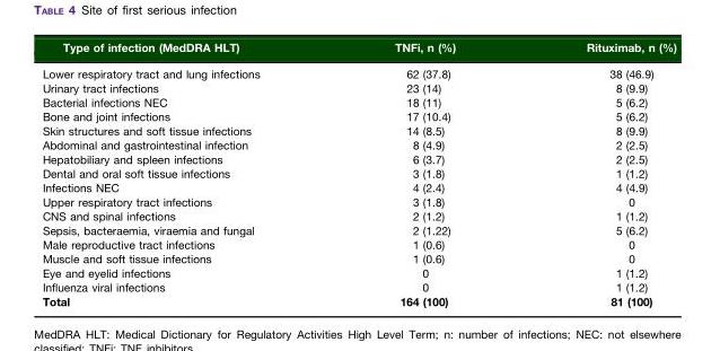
<table><thead><tr><td>Type of infection (MedDRA HLT)</td><td>TNFi, n (%)</td><td>Rituximab, n (%)</td></tr></thead><tbody><tr><td>Lower respiratory tract and lung infections</td><td>62 (37.8)</td><td>38 (46.9)</td></tr><tr><td>Urinary tract infections</td><td>23 (14)</td><td>8 (9.9)</td></tr><tr><td>Bacterial infections NEC</td><td>18 (11)</td><td>5 (6.2)</td></tr><tr><td>Bone and joint infections</td><td>17 (10.4)</td><td>5 (6.2)</td></tr><tr><td>Skin structures and soft tissue infections</td><td>14 (8.5)</td><td>8 (9.9)</td></tr><tr><td>Abdominal and gastrointestinal infection</td><td>8 (4.9)</td><td>2 (2.5)</td></tr><tr><td>Hepatobiliary and spleen infections</td><td>6 (3.7)</td><td>2 (2.5)</td></tr><tr><td>Dental and oral soft tissue infections</td><td>3 (1.8)</td><td>1 (1.2)</td></tr><tr><td>Infections NEC</td><td>4 (2.4)</td><td>4 (4.9)</td></tr><tr><td>Upper respiratory tract infections</td><td>3 (1.8)</td><td>0</td></tr><tr><td>CNS and spinal infections</td><td>2 (1.2)</td><td>1 (1.2)</td></tr><tr><td>Sepsis, bacteraemia, viraemia and fungal</td><td>2 (1.22)</td><td>5 (6.2)</td></tr><tr><td>Male reproductive tract infections</td><td>1 (0.6)</td><td>0</td></tr><tr><td>Muscle and soft tissue infections</td><td>1 (0.6)</td><td>0</td></tr><tr><td>Eye and eyelid infections</td><td>0</td><td>1 (1.2)</td></tr><tr><td>Influenza viral infections</td><td>0</td><td>1 (1.2)</td></tr><tr><td>Total</td><td>164 (100)</td><td>81 (100)</td></tr></tbody></table>